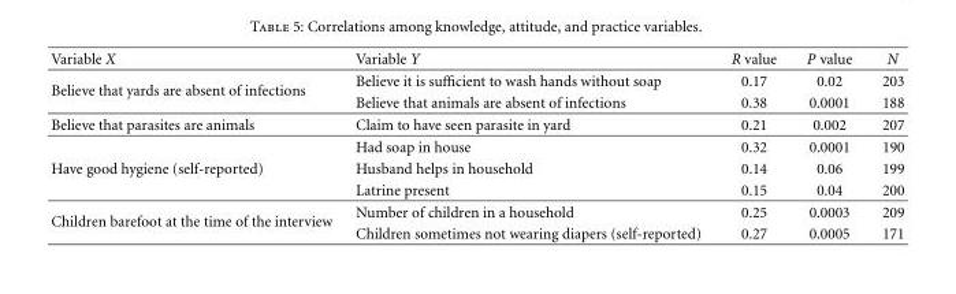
<table><thead><tr><td>Variable X</td><td>Variable Y</td><td>R value</td><td>P value</td><td>N</td></tr></thead><tbody><tr><td rowspan="2">Believe that yards are absent of infections</td><td>Believe it is sufficient to wash hands without soap</td><td>0.17</td><td>0.02</td><td>203</td></tr><tr><td>Believe that animals are absent of infections</td><td>0.38</td><td>0.0001</td><td>188</td></tr><tr><td rowspan="2">Believe that parasites are animals</td><td>Claim to have seen parasite in yard</td><td>0.21</td><td>0.002</td><td>207</td></tr><tr><td>Had soap in house</td><td>0.32</td><td>0.0001</td><td>190</td></tr><tr><td rowspan="2">Have good hygiene (self-reported)</td><td>Husband helps in household</td><td>0.14</td><td>0.06</td><td>199</td></tr><tr><td>Latrine present</td><td>0.15</td><td>0.04</td><td>200</td></tr><tr><td rowspan="2">Children barefoot at the time of the interview</td><td>Number of children in a household</td><td>0.25</td><td>0.0003</td><td>209</td></tr><tr><td>Children sometimes not wearing diapers (self-reported)</td><td>0.27</td><td>0.0005</td><td>171</td></tr></tbody></table>